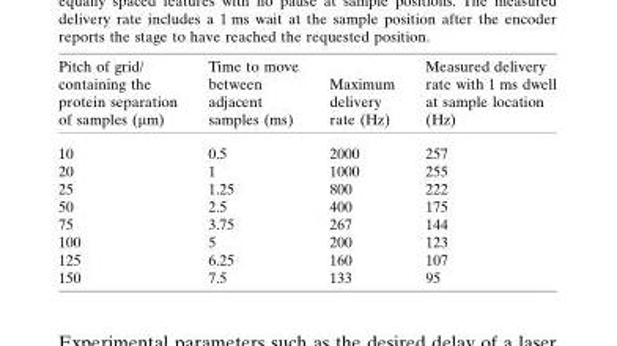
<table><thead><tr><td>Pitch of grid/ containing the protein separation of samples (µm)</td><td>Time to move between adjacent samples (ms)</td><td>Maximum delivery rate (Hz)</td><td>Measured delivery rate with 1 ms dwell at sample location (Hz)</td></tr></thead><tbody><tr><td>10</td><td>0.5</td><td>2000</td><td>257</td></tr><tr><td>20</td><td>1</td><td>1000</td><td>255</td></tr><tr><td>25</td><td>1.25</td><td>800</td><td>222</td></tr><tr><td>50</td><td>2.5</td><td>400</td><td>175</td></tr><tr><td>75</td><td>3.75</td><td>267</td><td>144</td></tr><tr><td>100</td><td>5</td><td>200</td><td>123</td></tr><tr><td>125</td><td>6.25</td><td>160</td><td>107</td></tr><tr><td>150</td><td>7.5</td><td>133</td><td>95</td></tr></tbody></table>